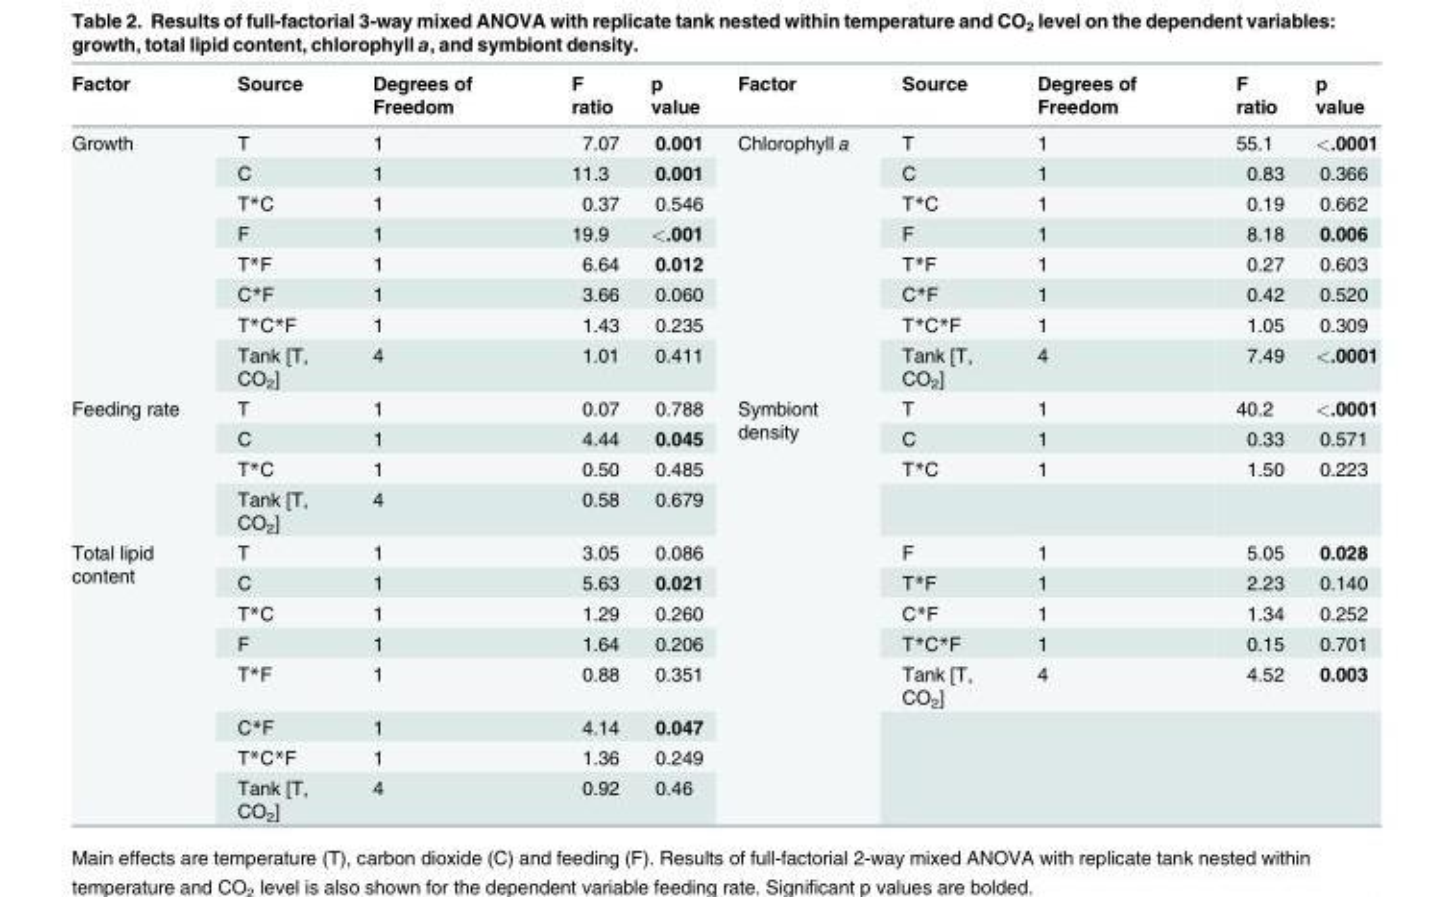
<table><thead><tr><td>Factor</td><td>Source</td><td>Degrees of Freedom</td><td>F ratio</td><td>p value</td><td>Factor</td><td>Source</td><td>Degrees of Freedom</td><td>F ratio</td><td>p value</td></tr></thead><tbody><tr><td rowspan="8">Growth</td><td>T</td><td>1</td><td>7.07</td><td>0.001</td><td rowspan="8">Chlorophyll a</td><td>T</td><td>1</td><td>55.1</td><td>&lt;.0001</td></tr><tr><td>C</td><td>1</td><td>11.3</td><td>0.001</td><td>C</td><td>1</td><td>0.83</td><td>0.366</td></tr><tr><td>T*C</td><td>1</td><td>0.37</td><td>0.546</td><td>T*C</td><td>1</td><td>0.19</td><td>0.662</td></tr><tr><td>F</td><td>1</td><td>19.9</td><td>&lt;.001</td><td>F</td><td>1</td><td>8.18</td><td>0.006</td></tr><tr><td>T*F</td><td>1</td><td>6.64</td><td>0.012</td><td>T*F</td><td>1</td><td>0.27</td><td>0.603</td></tr><tr><td>C*F</td><td>1</td><td>3.66</td><td>0.060</td><td>C*F</td><td>1</td><td>0.42</td><td>0.520</td></tr><tr><td>T*C*F</td><td>1</td><td>1.43</td><td>0.235</td><td>T*C*F</td><td>1</td><td>1.05</td><td>0.309</td></tr><tr><td>Tank [T, CO<sub>2</sub>]</td><td>4</td><td>1.01</td><td>0.411</td><td>Tank [T, CO<sub>2</sub>]</td><td>4</td><td>7.49</td><td>&lt;.0001</td></tr><tr><td rowspan="4">Feeding rate</td><td>T</td><td>1</td><td>0.07</td><td>0.788</td><td rowspan="12">Symbiont density</td><td>T</td><td>1</td><td>40.2</td><td>&lt;.0001</td></tr><tr><td>C</td><td>1</td><td>4.44</td><td>0.045</td><td>C</td><td>1</td><td>0.33</td><td>0.571</td></tr><tr><td>T*C</td><td>1</td><td>0.50</td><td>0.485</td><td>T*C</td><td>1</td><td>1.50</td><td>0.223</td></tr><tr><td>Tank [T, CO<sub>2</sub>]</td><td>4</td><td>0.58</td><td>0.679</td><td></td><td></td><td></td><td></td></tr><tr><td rowspan="8">Total lipid content</td><td>T</td><td>1</td><td>3.05</td><td>0.086</td><td>F</td><td>1</td><td>5.05</td><td>0.028</td></tr><tr><td>C</td><td>1</td><td>5.63</td><td>0.021</td><td>T*F</td><td>1</td><td>2.23</td><td>0.140</td></tr><tr><td>T*C</td><td>1</td><td>1.29</td><td>0.260</td><td>C*F</td><td>1</td><td>1.34</td><td>0.252</td></tr><tr><td>F</td><td>1</td><td>1.64</td><td>0.206</td><td>T*C*F</td><td>1</td><td>0.15</td><td>0.701</td></tr><tr><td>T*F</td><td>1</td><td>0.88</td><td>0.351</td><td>Tank [T, CO<sub>2</sub>]</td><td>4</td><td>4.52</td><td>0.003</td></tr><tr><td>C*F</td><td>1</td><td>4.14</td><td>0.047</td><td rowspan="3" colspan="4"></td></tr><tr><td>T*C*F</td><td>1</td><td>1.36</td><td>0.249</td></tr><tr><td>Tank [T, CO<sub>2</sub>]</td><td>4</td><td>0.92</td><td>0.46</td></tr></tbody></table>